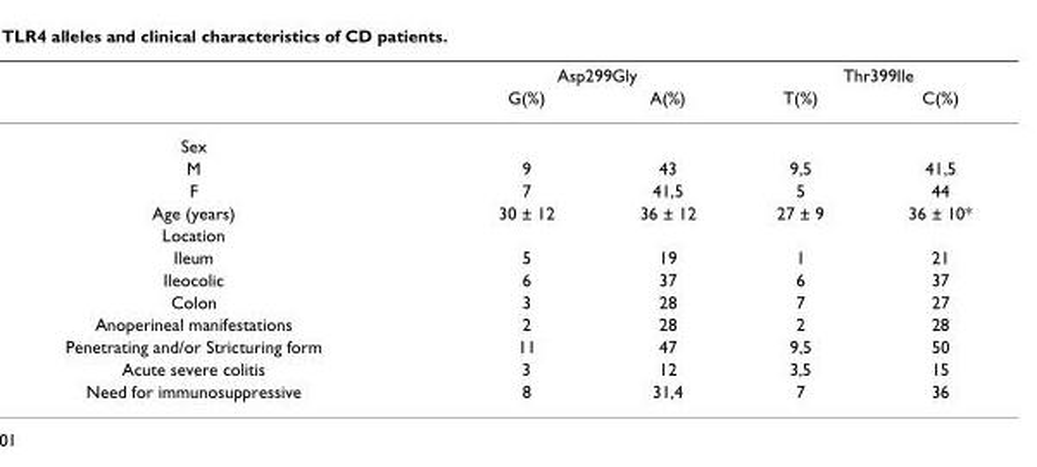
<table><thead><tr><td rowspan="2"></td><td colspan="2">Asp299Gly</td><td colspan="2">Thr399Ile</td></tr><tr><td>G(%)</td><td>A(%)</td><td>T(%)</td><td>C(%)</td></tr></thead><tbody><tr><td colspan="5">Sex</td></tr><tr><td>M</td><td>9</td><td>43</td><td>9,5</td><td>41,5</td></tr><tr><td>F</td><td>7</td><td>41,5</td><td>5</td><td>44</td></tr><tr><td>Age (years)</td><td>30 ± 12</td><td>36 ± 12</td><td>27 ± 9</td><td>36 ± 10*</td></tr><tr><td colspan="5">Location</td></tr><tr><td>Ileum</td><td>5</td><td>19</td><td>1</td><td>21</td></tr><tr><td>Ileocolic</td><td>6</td><td>37</td><td>6</td><td>37</td></tr><tr><td>Colon</td><td>3</td><td>28</td><td>7</td><td>27</td></tr><tr><td>Anoperineal manifestations</td><td>2</td><td>28</td><td>2</td><td>28</td></tr><tr><td>Penetrating and/or Stricturing form</td><td>11</td><td>47</td><td>9,5</td><td>50</td></tr><tr><td>Acute severe colitis</td><td>3</td><td>12</td><td>3,5</td><td>15</td></tr><tr><td>Need for immunosuppressive</td><td>8</td><td>31,4</td><td>7</td><td>36</td></tr></tbody></table>